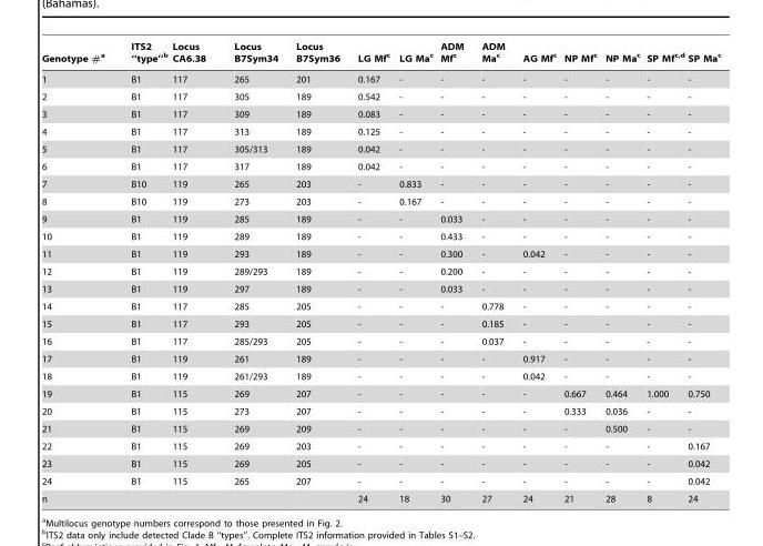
<table><thead><tr><td>Genotype #<sup>a</sup></td><td>ITS2 ‘‘type’’b</td><td>Locus CA6.38</td><td>Locus B7Sym34</td><td>Locus B7Sym36</td><td>LG Mf<sup>c</sup></td><td>LG Ma<sup>c</sup></td><td>ADM Mf<sup>c</sup></td><td>ADM Ma<sup>c</sup></td><td>AG Mf<sup>c</sup></td><td>NP Mf<sup>c</sup></td><td>NP Ma<sup>c</sup></td><td>SP Mfc,d</td><td>SP Ma<sup>c</sup></td></tr></thead><tbody><tr><td>1</td><td>B1</td><td>117</td><td>265</td><td>201</td><td>0.167</td><td>-</td><td>-</td><td>-</td><td>-</td><td>-</td><td>-</td><td>-</td><td>-</td></tr><tr><td>2</td><td>B1</td><td>117</td><td>305</td><td>189</td><td>0.542</td><td>-</td><td>-</td><td>-</td><td>-</td><td>-</td><td>-</td><td>-</td><td>-</td></tr><tr><td>3</td><td>B1</td><td>117</td><td>309</td><td>189</td><td>0.083</td><td>-</td><td>-</td><td>-</td><td>-</td><td>-</td><td>-</td><td>-</td><td>-</td></tr><tr><td>4</td><td>B1</td><td>117</td><td>313</td><td>189</td><td>0.125</td><td>-</td><td>-</td><td>-</td><td>-</td><td>-</td><td>-</td><td>-</td><td>-</td></tr><tr><td>5</td><td>B1</td><td>117</td><td>305/313</td><td>189</td><td>0.042</td><td>-</td><td>-</td><td>-</td><td>-</td><td>-</td><td>-</td><td>-</td><td>-</td></tr><tr><td>6</td><td>B1</td><td>117</td><td>317</td><td>189</td><td>0.042</td><td>-</td><td>-</td><td>-</td><td>-</td><td>-</td><td>-</td><td>-</td><td>-</td></tr><tr><td>7</td><td>B10</td><td>119</td><td>265</td><td>203</td><td>-</td><td>0.833</td><td>-</td><td>-</td><td>-</td><td>-</td><td>-</td><td>-</td><td>-</td></tr><tr><td>8</td><td>B10</td><td>119</td><td>273</td><td>203</td><td>-</td><td>0.167</td><td>-</td><td>-</td><td>-</td><td>-</td><td>-</td><td>-</td><td>-</td></tr><tr><td>9</td><td>B1</td><td>119</td><td>285</td><td>189</td><td>-</td><td>-</td><td>0.033</td><td>-</td><td>-</td><td>-</td><td>-</td><td>-</td><td>-</td></tr><tr><td>10</td><td>B1</td><td>119</td><td>289</td><td>189</td><td>-</td><td>-</td><td>0.433</td><td>-</td><td>-</td><td>-</td><td>-</td><td>-</td><td>-</td></tr><tr><td>11</td><td>B1</td><td>119</td><td>293</td><td>189</td><td>-</td><td>-</td><td>0.300</td><td>-</td><td>0.042</td><td>-</td><td>-</td><td>-</td><td>-</td></tr><tr><td>12</td><td>B1</td><td>119</td><td>289/293</td><td>189</td><td>-</td><td>-</td><td>0.200</td><td>-</td><td>-</td><td>-</td><td>-</td><td>-</td><td>-</td></tr><tr><td>13</td><td>B1</td><td>119</td><td>297</td><td>189</td><td>-</td><td>-</td><td>0.033</td><td>-</td><td>-</td><td>-</td><td>-</td><td>-</td><td>-</td></tr><tr><td>14</td><td>B1</td><td>117</td><td>285</td><td>205</td><td>-</td><td>-</td><td>-</td><td>0.778</td><td>-</td><td>-</td><td>-</td><td>-</td><td>-</td></tr><tr><td>15</td><td>B1</td><td>117</td><td>293</td><td>205</td><td>-</td><td>-</td><td>-</td><td>0.185</td><td>-</td><td>-</td><td>-</td><td>-</td><td>-</td></tr><tr><td>16</td><td>B1</td><td>117</td><td>285/293</td><td>205</td><td>-</td><td>-</td><td>-</td><td>0.037</td><td>-</td><td>-</td><td>-</td><td>-</td><td>-</td></tr><tr><td>17</td><td>B1</td><td>119</td><td>261</td><td>189</td><td>-</td><td>-</td><td>-</td><td>-</td><td>0.917</td><td>-</td><td>-</td><td>-</td><td>-</td></tr><tr><td>18</td><td>B1</td><td>119</td><td>261/293</td><td>189</td><td>-</td><td>-</td><td>-</td><td>-</td><td>0.042</td><td>-</td><td>-</td><td>-</td><td>-</td></tr><tr><td>19</td><td>B1</td><td>115</td><td>269</td><td>207</td><td>-</td><td>-</td><td>-</td><td>-</td><td>-</td><td>0.667</td><td>0.464</td><td>1.000</td><td>0.750</td></tr><tr><td>20</td><td>B1</td><td>115</td><td>273</td><td>207</td><td>-</td><td>-</td><td>-</td><td>-</td><td>-</td><td>0.333</td><td>0.036</td><td>-</td><td>-</td></tr><tr><td>21</td><td>B1</td><td>115</td><td>269</td><td>209</td><td>-</td><td>-</td><td>-</td><td>-</td><td>-</td><td>-</td><td>0.500</td><td>-</td><td>-</td></tr><tr><td>22</td><td>B1</td><td>115</td><td>269</td><td>203</td><td>-</td><td>-</td><td>-</td><td>-</td><td>-</td><td>-</td><td>-</td><td>-</td><td>0.167</td></tr><tr><td>23</td><td>B1</td><td>115</td><td>269</td><td>205</td><td>-</td><td>-</td><td>-</td><td>-</td><td>-</td><td>-</td><td>-</td><td>-</td><td>0.042</td></tr><tr><td>24</td><td>B1</td><td>115</td><td>265</td><td>207</td><td>-</td><td>-</td><td>-</td><td>-</td><td>-</td><td>-</td><td>-</td><td>-</td><td>0.042</td></tr><tr><td>n</td><td></td><td></td><td></td><td></td><td>24</td><td>18</td><td>30</td><td>27</td><td>24</td><td>21</td><td>28</td><td>8</td><td>24</td></tr></tbody></table>